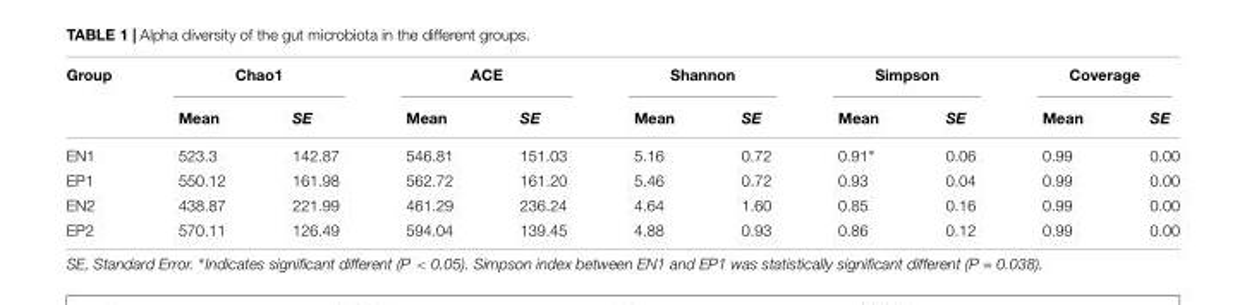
<table><thead><tr><td rowspan="2">Group</td><td colspan="2">Chao1</td><td colspan="2">ACE</td><td colspan="2">Shannon</td><td colspan="2">Simpson</td><td colspan="2">Coverage</td></tr><tr><td>Mean</td><td>SE</td><td>Mean</td><td>SE</td><td>Mean</td><td>SE</td><td>Mean</td><td>SE</td><td>Mean</td><td>SE</td></tr></thead><tbody><tr><td>EN1</td><td>523.3</td><td>142.87</td><td>546.81</td><td>151.03</td><td>5.16</td><td>0.72</td><td>0.91∗</td><td>0.06</td><td>0.99</td><td>0.00</td></tr><tr><td>EP1</td><td>550.12</td><td>161.98</td><td>562.72</td><td>161.20</td><td>5.46</td><td>0.72</td><td>0.93</td><td>0.04</td><td>0.99</td><td>0.00</td></tr><tr><td>EN2</td><td>438.87</td><td>221.99</td><td>461.29</td><td>236.24</td><td>4.64</td><td>1.60</td><td>0.85</td><td>0.16</td><td>0.99</td><td>0.00</td></tr><tr><td>EP2</td><td>570.11</td><td>126.49</td><td>594.04</td><td>139.45</td><td>4.88</td><td>0.93</td><td>0.86</td><td>0.12</td><td>0.99</td><td>0.00</td></tr></tbody></table>